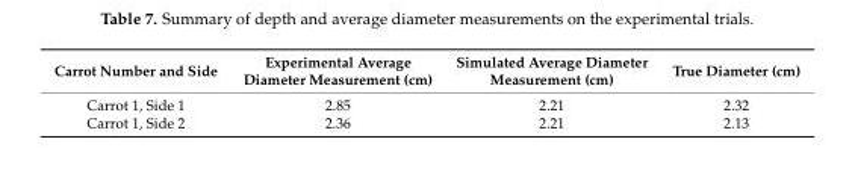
<table><thead><tr><td>Carrot Number and Side</td><td>Experimental Average Diameter Measurement (cm)</td><td>Simulated Average Diameter Measurement (cm)</td><td>True Diameter (cm)</td></tr></thead><tbody><tr><td>Carrot 1, Side 1</td><td>2.85</td><td>2.21</td><td>2.32</td></tr><tr><td>Carrot 1, Side 2</td><td>2.36</td><td>2.21</td><td>2.13</td></tr></tbody></table>